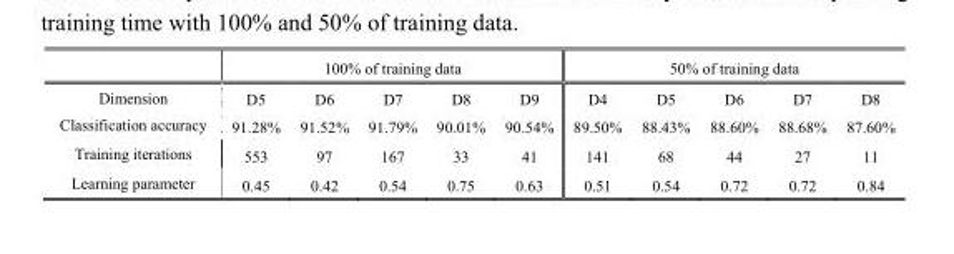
<table><thead><tr><td rowspan="2">Dimension</td><td colspan="5">100% of training data</td><td colspan="5">50% of training data</td></tr><tr><td>D5</td><td>D6</td><td>D7</td><td>D8</td><td>D9</td><td>D4</td><td>D5</td><td>D6</td><td>D7</td><td>D8</td></tr></thead><tbody><tr><td>Classification accuracy</td><td>91.28%</td><td>91.52%</td><td>91.79%</td><td>90.01%</td><td>90.54%</td><td>89.50%</td><td>88.43%</td><td>88.60%</td><td>88.68%</td><td>87.60%</td></tr><tr><td>Training iterations</td><td>553</td><td>97</td><td>167</td><td>33</td><td>41</td><td>141</td><td>68</td><td>44</td><td>27</td><td>11</td></tr><tr><td>Learning parameter</td><td>0.45</td><td>0.42</td><td>0.54</td><td>0.75</td><td>0.63</td><td>0.51</td><td>0.54</td><td>0.72</td><td>0.72</td><td>0.84</td></tr></tbody></table>